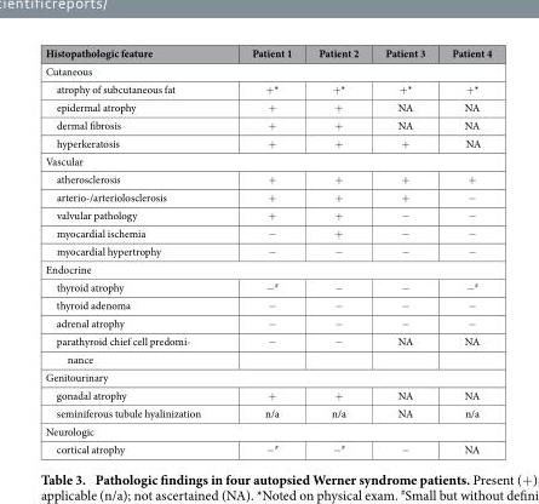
<table><thead><tr><td>Histopathologic feature</td><td>Patient 1</td><td>Patient 2</td><td>Patient 3</td><td>Patient 4</td></tr></thead><tbody><tr><td colspan="5">Cutaneous</td></tr><tr><td>atrophy of subcutaneous fat</td><td>+ *</td><td>+ *</td><td>+ *</td><td>+ *</td></tr><tr><td>epidermal atrophy</td><td>+</td><td>+</td><td>NA</td><td>NA</td></tr><tr><td>dermal fibrosis</td><td>+</td><td>+</td><td>NA</td><td>NA</td></tr><tr><td>hyperkeratosis</td><td>+</td><td>+</td><td>+</td><td>NA</td></tr><tr><td colspan="5">Vascular</td></tr><tr><td>atherosclerosis</td><td>+</td><td>+</td><td>+</td><td>+</td></tr><tr><td>arterio-/arteriolosclerosis</td><td>+</td><td>+</td><td>+</td><td>−</td></tr><tr><td>valvular pathology</td><td>+</td><td>+</td><td>−</td><td>−</td></tr><tr><td>myocardial ischemia</td><td>−</td><td>+</td><td>−</td><td>−</td></tr><tr><td>myocardial hypertrophy</td><td>−</td><td>−</td><td>−</td><td>−</td></tr><tr><td colspan="5">Endocrine</td></tr><tr><td>thyroid atrophy</td><td>− #</td><td>−</td><td>−</td><td>− #</td></tr><tr><td>thyroid adenoma</td><td>−</td><td>−</td><td>−</td><td>−</td></tr><tr><td>adrenal atrophy</td><td>−</td><td>−</td><td>−</td><td>−</td></tr><tr><td>parathyroid chief cell predomi-</td><td>−</td><td>−</td><td>NA</td><td>NA</td></tr><tr><td colspan="5">nance</td></tr><tr><td colspan="5">Genitourinary</td></tr><tr><td>gonadal atrophy</td><td>+</td><td>+</td><td>NA</td><td>NA</td></tr><tr><td>seminiferous tubule hyalinization</td><td>n/a</td><td>n/a</td><td>NA</td><td>n/a</td></tr><tr><td colspan="5">Neurologic</td></tr><tr><td>cortical atrophy</td><td>− #</td><td>− #</td><td>−</td><td>NA</td></tr></tbody></table>